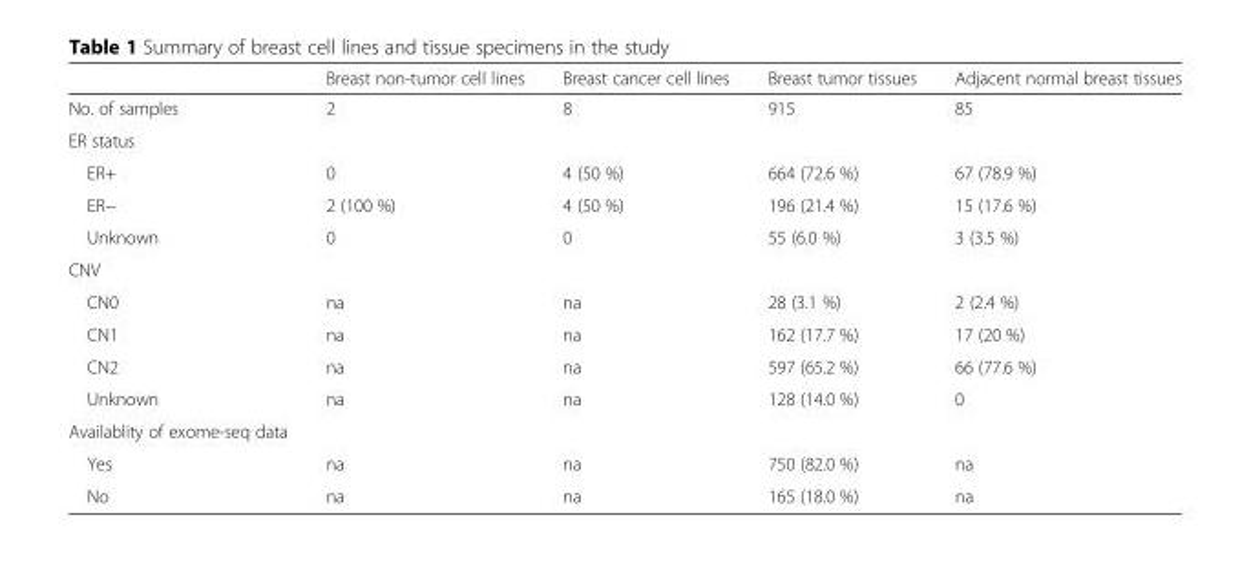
<table><thead><tr><td></td><td>Breast non-tumor cell lines</td><td>Breast cancer cell lines</td><td>Breast tumor tissues</td><td>Adjacent normal breast tissues</td></tr></thead><tbody><tr><td>No. of samples</td><td>2</td><td>8</td><td>915</td><td>85</td></tr><tr><td colspan="5">ER status</td></tr><tr><td>ER+</td><td>0</td><td>4 (50 %)</td><td>664 (72.6 %)</td><td>67 (78.9 %)</td></tr><tr><td>ER−</td><td>2 (100 %)</td><td>4 (50 %)</td><td>196 (21.4 %)</td><td>15 (17.6 %)</td></tr><tr><td>Unknown</td><td>0</td><td>0</td><td>55 (6.0 %)</td><td>3 (3.5 %)</td></tr><tr><td colspan="5">CNV</td></tr><tr><td>CN0</td><td>na</td><td>na</td><td>28 (3.1 %)</td><td>2 (2.4 %)</td></tr><tr><td>CN1</td><td>na</td><td>na</td><td>162 (17.7 %)</td><td>17 (20 %)</td></tr><tr><td>CN2</td><td>na</td><td>na</td><td>597 (65.2 %)</td><td>66 (77.6 %)</td></tr><tr><td>Unknown</td><td>na</td><td>na</td><td>128 (14.0 %)</td><td>0</td></tr><tr><td colspan="5">Availablity of exome-seq data</td></tr><tr><td>Yes</td><td>na</td><td>na</td><td>750 (82.0 %)</td><td>na</td></tr><tr><td>No</td><td>na</td><td>na</td><td>165 (18.0 %)</td><td>na</td></tr></tbody></table>